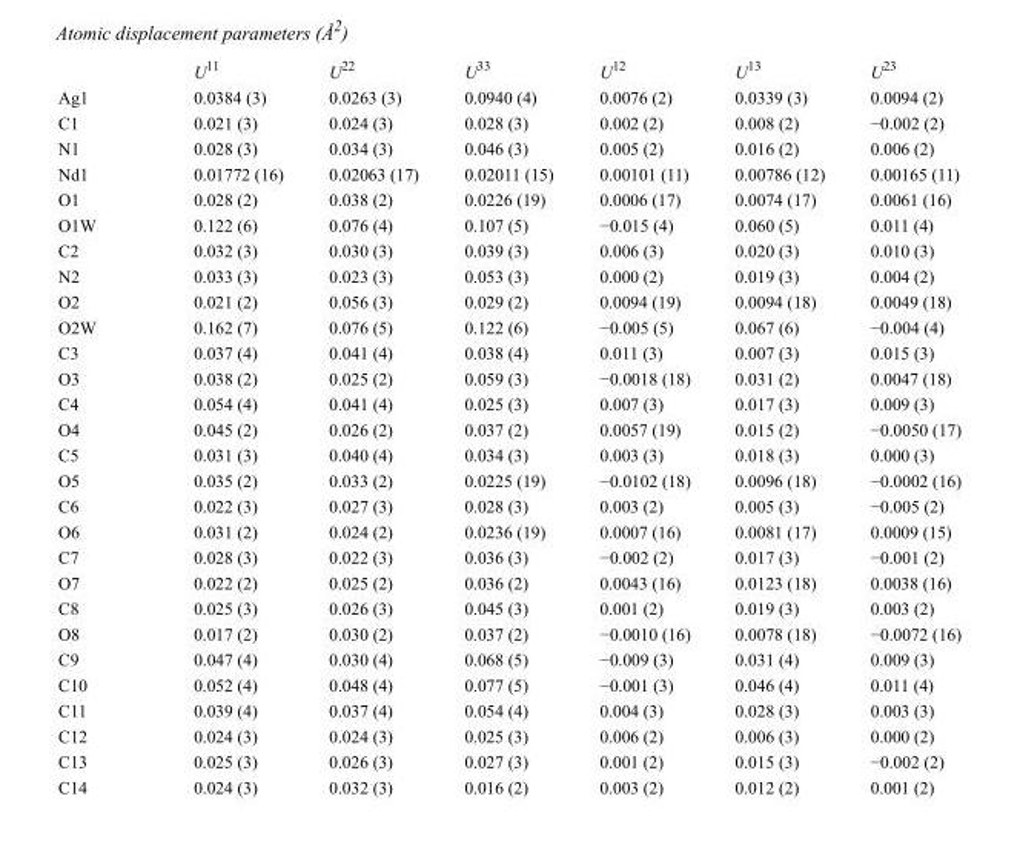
<table><thead><tr><td></td><td>U<sup>11</sup></td><td>U<sup>22</sup></td><td>U<sup>33</sup></td><td>U<sup>12</sup></td><td>U<sup>13</sup></td><td>U<sup>23</sup></td></tr></thead><tbody><tr><td>Ag1</td><td>0.0384 (3)</td><td>0.0263 (3)</td><td>0.0940 (4)</td><td>0.0076 (2)</td><td>0.0339 (3)</td><td>0.0094 (2)</td></tr><tr><td>C1</td><td>0.021 (3)</td><td>0.024 (3)</td><td>0.028 (3)</td><td>0.002 (2)</td><td>0.008 (2)</td><td>−0.002 (2)</td></tr><tr><td>N1</td><td>0.028 (3)</td><td>0.034 (3)</td><td>0.046 (3)</td><td>0.005 (2)</td><td>0.016 (2)</td><td>0.006 (2)</td></tr><tr><td>Nd1</td><td>0.01772 (16)</td><td>0.02063 (17)</td><td>0.02011 (15)</td><td>0.00101 (11)</td><td>0.00786 (12)</td><td>0.00165 (11)</td></tr><tr><td>O1</td><td>0.028 (2)</td><td>0.038 (2)</td><td>0.0226 (19)</td><td>0.0006 (17)</td><td>0.0074 (17)</td><td>0.0061 (16)</td></tr><tr><td>O1W</td><td>0.122 (6)</td><td>0.076 (4)</td><td>0.107 (5)</td><td>−0.015 (4)</td><td>0.060 (5)</td><td>0.011 (4)</td></tr><tr><td>C2</td><td>0.032 (3)</td><td>0.030 (3)</td><td>0.039 (3)</td><td>0.006 (3)</td><td>0.020 (3)</td><td>0.010 (3)</td></tr><tr><td>N2</td><td>0.033 (3)</td><td>0.023 (3)</td><td>0.053 (3)</td><td>0.000 (2)</td><td>0.019 (3)</td><td>0.004 (2)</td></tr><tr><td>O2</td><td>0.021 (2)</td><td>0.056 (3)</td><td>0.029 (2)</td><td>0.0094 (19)</td><td>0.0094 (18)</td><td>0.0049 (18)</td></tr><tr><td>O2W</td><td>0.162 (7)</td><td>0.076 (5)</td><td>0.122 (6)</td><td>−0.005 (5)</td><td>0.067 (6)</td><td>−0.004 (4)</td></tr><tr><td>C3</td><td>0.037 (4)</td><td>0.041 (4)</td><td>0.038 (4)</td><td>0.011 (3)</td><td>0.007 (3)</td><td>0.015 (3)</td></tr><tr><td>O3</td><td>0.038 (2)</td><td>0.025 (2)</td><td>0.059 (3)</td><td>−0.0018 (18)</td><td>0.031 (2)</td><td>0.0047 (18)</td></tr><tr><td>C4</td><td>0.054 (4)</td><td>0.041 (4)</td><td>0.025 (3)</td><td>0.007 (3)</td><td>0.017 (3)</td><td>0.009 (3)</td></tr><tr><td>O4</td><td>0.045 (2)</td><td>0.026 (2)</td><td>0.037 (2)</td><td>0.0057 (19)</td><td>0.015 (2)</td><td>−0.0050 (17)</td></tr><tr><td>C5</td><td>0.031 (3)</td><td>0.040 (4)</td><td>0.034 (3)</td><td>0.003 (3)</td><td>0.018 (3)</td><td>0.000 (3)</td></tr><tr><td>O5</td><td>0.035 (2)</td><td>0.033 (2)</td><td>0.0225 (19)</td><td>−0.0102 (18)</td><td>0.0096 (18)</td><td>−0.0002 (16)</td></tr><tr><td>C6</td><td>0.022 (3)</td><td>0.027 (3)</td><td>0.028 (3)</td><td>0.003 (2)</td><td>0.005 (3)</td><td>−0.005 (2)</td></tr><tr><td>O6</td><td>0.031 (2)</td><td>0.024 (2)</td><td>0.0236 (19)</td><td>0.0007 (16)</td><td>0.0081 (17)</td><td>0.0009 (15)</td></tr><tr><td>C7</td><td>0.028 (3)</td><td>0.022 (3)</td><td>0.036 (3)</td><td>−0.002 (2)</td><td>0.017 (3)</td><td>−0.001 (2)</td></tr><tr><td>O7</td><td>0.022 (2)</td><td>0.025 (2)</td><td>0.036 (2)</td><td>0.0043 (16)</td><td>0.0123 (18)</td><td>0.0038 (16)</td></tr><tr><td>C8</td><td>0.025 (3)</td><td>0.026 (3)</td><td>0.045 (3)</td><td>0.001 (2)</td><td>0.019 (3)</td><td>0.003 (2)</td></tr><tr><td>O8</td><td>0.017 (2)</td><td>0.030 (2)</td><td>0.037 (2)</td><td>−0.0010 (16)</td><td>0.0078 (18)</td><td>−0.0072 (16)</td></tr><tr><td>C9</td><td>0.047 (4)</td><td>0.030 (4)</td><td>0.068 (5)</td><td>−0.009 (3)</td><td>0.031 (4)</td><td>0.009 (3)</td></tr><tr><td>C10</td><td>0.052 (4)</td><td>0.048 (4)</td><td>0.077 (5)</td><td>−0.001 (3)</td><td>0.046 (4)</td><td>0.011 (4)</td></tr><tr><td>C11</td><td>0.039 (4)</td><td>0.037 (4)</td><td>0.054 (4)</td><td>0.004 (3)</td><td>0.028 (3)</td><td>0.003 (3)</td></tr><tr><td>C12</td><td>0.024 (3)</td><td>0.024 (3)</td><td>0.025 (3)</td><td>0.006 (2)</td><td>0.006 (3)</td><td>0.000 (2)</td></tr><tr><td>C13</td><td>0.025 (3)</td><td>0.026 (3)</td><td>0.027 (3)</td><td>0.001 (2)</td><td>0.015 (3)</td><td>−0.002 (2)</td></tr><tr><td>C14</td><td>0.024 (3)</td><td>0.032 (3)</td><td>0.016 (2)</td><td>0.003 (2)</td><td>0.012 (2)</td><td>0.001 (2)</td></tr></tbody></table>